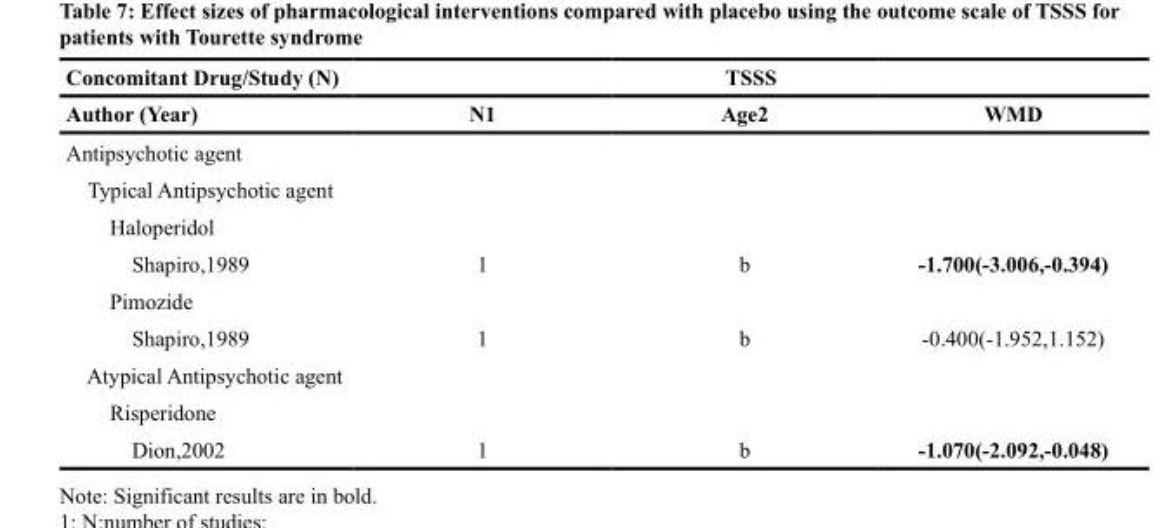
<table><thead><tr><td rowspan="2">Concomitant Drug/Study (N) Author (Year)</td><td colspan="3">TSSS</td></tr><tr><td>N1</td><td>Age2</td><td>WMD</td></tr></thead><tbody><tr><td colspan="4">Antipsychotic agent</td></tr><tr><td colspan="4">Typical Antipsychotic agent</td></tr><tr><td colspan="4">Haloperidol</td></tr><tr><td>Shapiro,1989</td><td>1</td><td>b</td><td>-1.700(-3.006,-0.394)</td></tr><tr><td colspan="4">Pimozide</td></tr><tr><td>Shapiro,1989</td><td>1</td><td>b</td><td>-0.400(-1.952,1.152)</td></tr><tr><td colspan="4">Atypical Antipsychotic agent</td></tr><tr><td colspan="4">Risperidone</td></tr><tr><td>Dion,2002</td><td>1</td><td>b</td><td>-1.070(-2.092,-0.048)</td></tr></tbody></table>